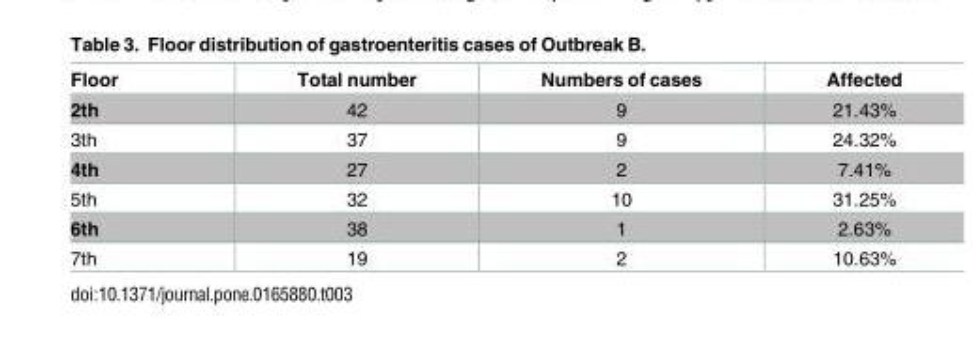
<table><thead><tr><td>Floor</td><td>Total number</td><td>Numbers of cases</td><td>Affected</td></tr></thead><tbody><tr><td>2th</td><td>42</td><td>9</td><td>21.43%</td></tr><tr><td>3th</td><td>37</td><td>9</td><td>24.32%</td></tr><tr><td>4th</td><td>27</td><td>2</td><td>7.41%</td></tr><tr><td>5th</td><td>32</td><td>10</td><td>31.25%</td></tr><tr><td>6th</td><td>38</td><td>1</td><td>2.63%</td></tr><tr><td>7th</td><td>19</td><td>2</td><td>10.63%</td></tr></tbody></table>